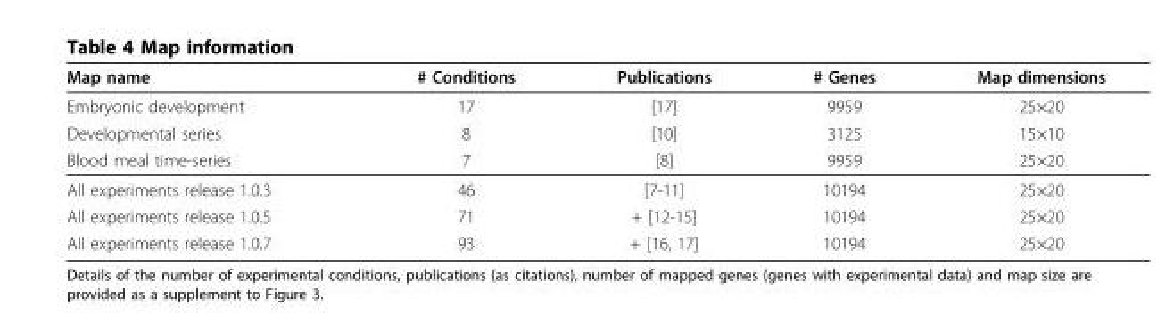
<table><thead><tr><td>Map name</td><td># Conditions</td><td>Publications</td><td># Genes</td><td>Map dimensions</td></tr></thead><tbody><tr><td>Embryonic development</td><td>17</td><td>[17]</td><td>9959</td><td>25×20</td></tr><tr><td>Developmental series</td><td>8</td><td>[10]</td><td>3125</td><td>15×10</td></tr><tr><td>Blood meal time-series</td><td>7</td><td>[8]</td><td>9959</td><td>25×20</td></tr><tr><td>All experiments release 1.0.3</td><td>46</td><td>[7-11]</td><td>10194</td><td>25×20</td></tr><tr><td>All experiments release 1.0.5</td><td>71</td><td>+ [12-15]</td><td>10194</td><td>25×20</td></tr><tr><td>All experiments release 1.0.7</td><td>93</td><td>+ [16, 17]</td><td>10194</td><td>25×20</td></tr></tbody></table>